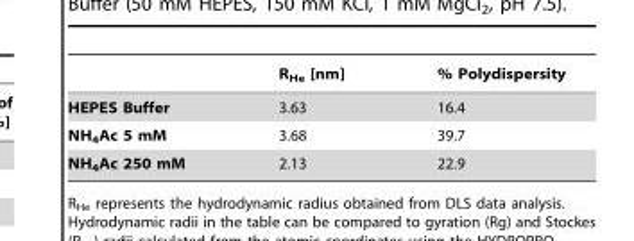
<table><thead><tr><td></td><td>R<sub>He</sub> [nm]</td><td>% Polydispersity</td></tr></thead><tbody><tr><td>HEPES Buffer</td><td>3.63</td><td>16.4</td></tr><tr><td>NH<sub>4</sub>Ac 5 mM</td><td>3.68</td><td>39.7</td></tr><tr><td>NH<sub>4</sub>Ac 250 mM</td><td>2.13</td><td>22.9</td></tr></tbody></table>